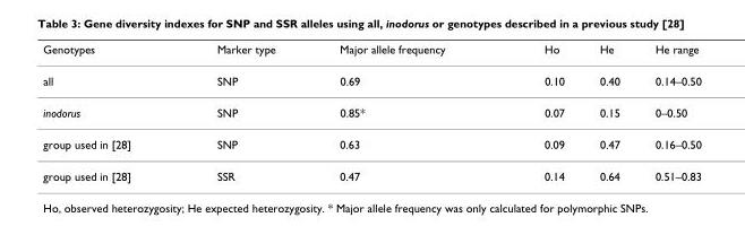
<table><thead><tr><td>Genotypes</td><td>Marker type</td><td>Major allele frequency</td><td>Ho</td><td>He</td><td>He range</td></tr></thead><tbody><tr><td>all</td><td>SNP</td><td>0.69</td><td>0.10</td><td>0.40</td><td>0.14–0.50</td></tr><tr><td>inodorus</td><td>SNP</td><td>0.85*</td><td>0.07</td><td>0.15</td><td>0–0.50</td></tr><tr><td>group used in [28]</td><td>SNP</td><td>0.63</td><td>0.09</td><td>0.47</td><td>0.16–0.50</td></tr><tr><td>group used in [28]</td><td>SSR</td><td>0.47</td><td>0.14</td><td>0.64</td><td>0.51–0.83</td></tr></tbody></table>